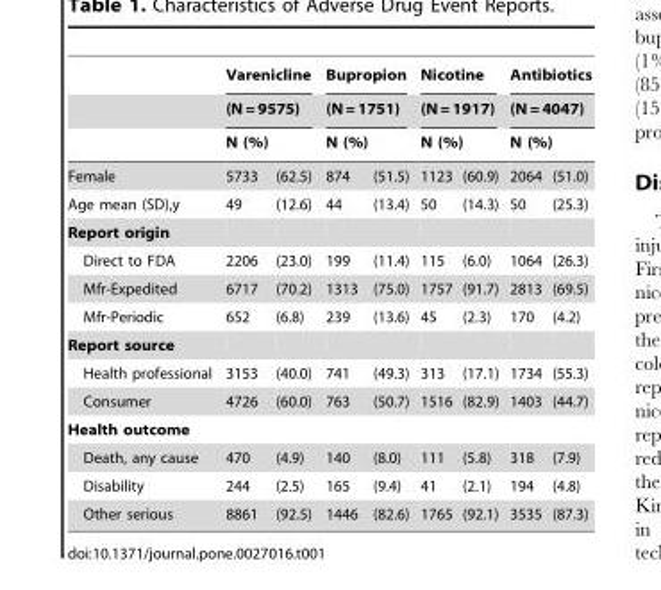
<table><thead><tr><td rowspan="4">Female</td><td rowspan="3" colspan="2">Varenicline (N = 9575) N (%)</td><td rowspan="3" colspan="2">Bupropion (N = 1751) N (%)</td><td rowspan="3" colspan="2">Nicotine (N = 1917) N (%)</td><td rowspan="3" colspan="2">Antibiotics (N = 4047) N (%)</td></tr><tr></tr><tr></tr><tr><td>5733</td><td>(62.5)</td><td>874</td><td>(51.5)</td><td>1123</td><td>(60.9)</td><td>2064</td><td>(51.0)</td></tr></thead><tbody><tr><td>Age mean (SD),y</td><td>49</td><td>(12.6)</td><td>44</td><td>(13.4)</td><td>50</td><td>(14.3)</td><td>50</td><td>(25.3)</td></tr><tr><td colspan="9">Report origin</td></tr><tr><td>Direct to FDA</td><td>2206</td><td>(23.0)</td><td>199</td><td>(11.4)</td><td>115</td><td>(6.0)</td><td>1064</td><td>(26.3)</td></tr><tr><td>Mfr-Expedited</td><td>6717</td><td>(70.2)</td><td>1313</td><td>(75.0)</td><td>1757</td><td>(91.7)</td><td>2813</td><td>(69.5)</td></tr><tr><td>Mfr-Periodic</td><td>652</td><td>(6.8)</td><td>239</td><td>(13.6)</td><td>45</td><td>(2.3)</td><td>170</td><td>(4.2)</td></tr><tr><td colspan="9">Report source</td></tr><tr><td>Health professional</td><td>3153</td><td>(40.0)</td><td>741</td><td>(49.3)</td><td>313</td><td>(17.1)</td><td>1734</td><td>(55.3)</td></tr><tr><td>Consumer</td><td>4726</td><td>(60.0)</td><td>763</td><td>(50.7)</td><td>1516</td><td>(82.9)</td><td>1403</td><td>(44.7)</td></tr><tr><td colspan="9">Health outcome</td></tr><tr><td>Death, any cause</td><td>470</td><td>(4.9)</td><td>140</td><td>(8.0)</td><td>111</td><td>(5.8)</td><td>318</td><td>(7.9)</td></tr><tr><td>Disability</td><td>244</td><td>(2.5)</td><td>165</td><td>(9.4)</td><td>41</td><td>(2.1)</td><td>194</td><td>(4.8)</td></tr><tr><td>Other serious</td><td>8861</td><td>(92.5)</td><td>1446</td><td>(82.6)</td><td>1765</td><td>(92.1)</td><td>3535</td><td>(87.3)</td></tr></tbody></table>